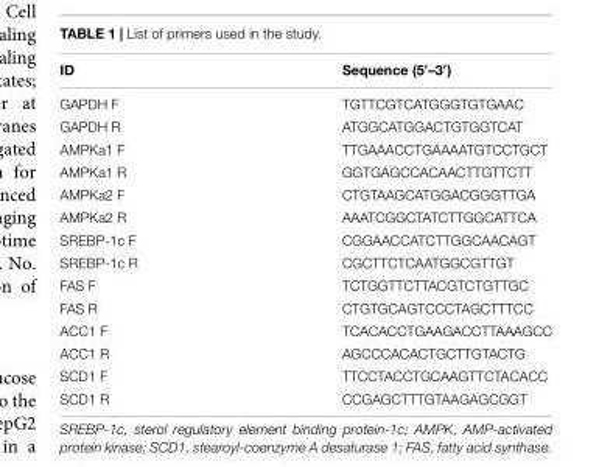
<table><thead><tr><td>ID</td><td>Sequence (5′–3′)</td></tr></thead><tbody><tr><td>GAPDH F</td><td>TGTTCGTCATGGGTGTGAAC</td></tr><tr><td>GAPDH R</td><td>ATGGCATGGACTGTGGTCAT</td></tr><tr><td>AMPKa1 F</td><td>TTGAAACCTGAAAATGTCCTGCT</td></tr><tr><td>AMPKa1 R</td><td>GGTGAGCCACAACTTGTTCTT</td></tr><tr><td>AMPKa2 F</td><td>CTGTAAGCATGGACGGGTTGA</td></tr><tr><td>AMPKa2 R</td><td>AAATCGGCTATCTTGGCATTCA</td></tr><tr><td>SREBP-1c F</td><td>CGGAACCATCTTGGCAACAGT</td></tr><tr><td>SREBP-1c R</td><td>CGCTTCTCAATGGCGTTGT</td></tr><tr><td>FAS F</td><td>TCTGGTTCTTACGTCTGTTGC</td></tr><tr><td>FAS R</td><td>CTGTGCAGTCCCTAGCTTTCC</td></tr><tr><td>ACC1 F</td><td>TCACACCTGAAGACCTTAAAGCC</td></tr><tr><td>ACC1 R</td><td>AGCCCACACTGCTTGTACTG</td></tr><tr><td>SCD1 F</td><td>TTCCTACCTGCAAGTTCTACACC</td></tr><tr><td>SCD1 R</td><td>CCGAGCTTTGTAAGAGCGGT</td></tr></tbody></table>